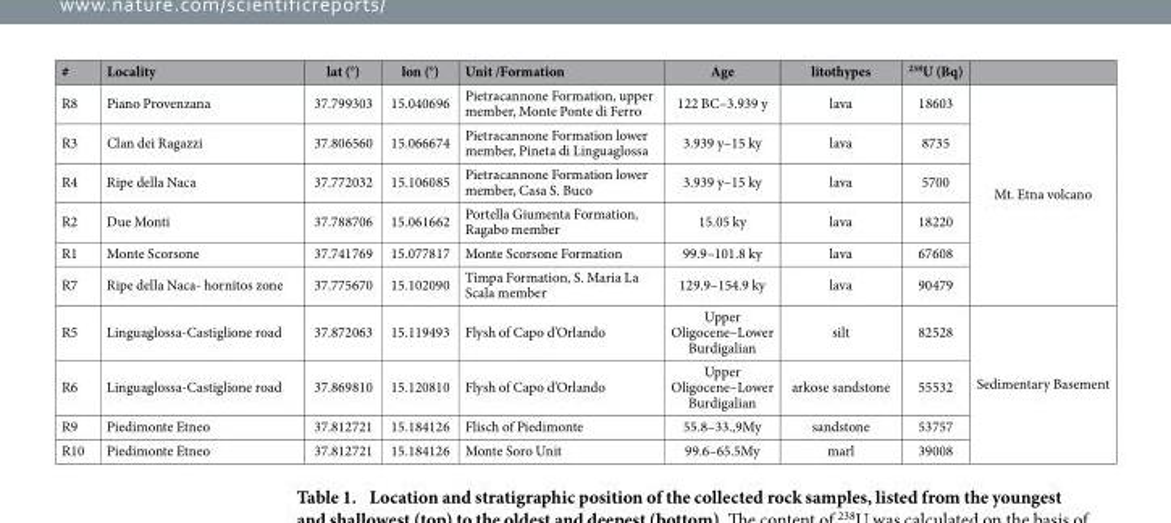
<table><thead><tr><td>#</td><td>Locality</td><td>lat (°)</td><td>lon (°)</td><td>Unit /Formation</td><td>Age</td><td>litothypes</td><td><sup>238</sup>U (Bq)</td><td></td></tr></thead><tbody><tr><td>R8</td><td>Piano Provenzana</td><td>37.799303</td><td>15.040696</td><td>Pietracannone Formation, upper member, Monte Ponte di Ferro</td><td>122 BC–3.939 y</td><td>lava</td><td>18603</td><td rowspan="6">Mt. Etna volcano</td></tr><tr><td>R3</td><td>Clan dei Ragazzi</td><td>37.806560</td><td>15.066674</td><td>Pietracannone Formation lower member, Pineta di Linguaglossa</td><td>3.939 y–15 ky</td><td>lava</td><td>8735</td></tr><tr><td>R4</td><td>Ripe della Naca</td><td>37.772032</td><td>15.106085</td><td>Pietracannone Formation lower member, Casa S. Buco</td><td>3.939 y–15 ky</td><td>lava</td><td>5700</td></tr><tr><td>R2</td><td>Due Monti</td><td>37.788706</td><td>15.061662</td><td>Portella Giumenta Formation, Ragabo member</td><td>15.05 ky</td><td>lava</td><td>18220</td></tr><tr><td>R1</td><td>Monte Scorsone</td><td>37.741769</td><td>15.077817</td><td>Monte Scorsone Formation</td><td>99.9–101.8 ky</td><td>lava</td><td>67608</td></tr><tr><td>R7</td><td>Ripe della Naca- hornitos zone</td><td>37.775670</td><td>15.102090</td><td>Timpa Formation, S. Maria La Scala member</td><td>129.9–154.9 ky</td><td>lava</td><td>90479</td></tr><tr><td>R5</td><td>Linguaglossa-Castiglione road</td><td>37.872063</td><td>15.119493</td><td>Flysh of Capo d’Orlando</td><td>Upper Oligocene–Lower Burdigalian</td><td>silt</td><td>82528</td><td rowspan="4">Sedimentary Basement</td></tr><tr><td>R6</td><td>Linguaglossa-Castiglione road</td><td>37.869810</td><td>15.120810</td><td>Flysh of Capo d’Orlando</td><td>Upper Oligocene–Lower Burdigalian</td><td>arkose sandstone</td><td>55532</td></tr><tr><td>R9</td><td>Piedimonte Etneo</td><td>37.812721</td><td>15.184126</td><td>Flisch of Piedimonte</td><td>55.8–33.,9My</td><td>sandstone</td><td>53757</td></tr><tr><td>R10</td><td>Piedimonte Etneo</td><td>37.812721</td><td>15.184126</td><td>Monte Soro Unit</td><td>99.6–65.5My</td><td>marl</td><td>39008</td></tr></tbody></table>